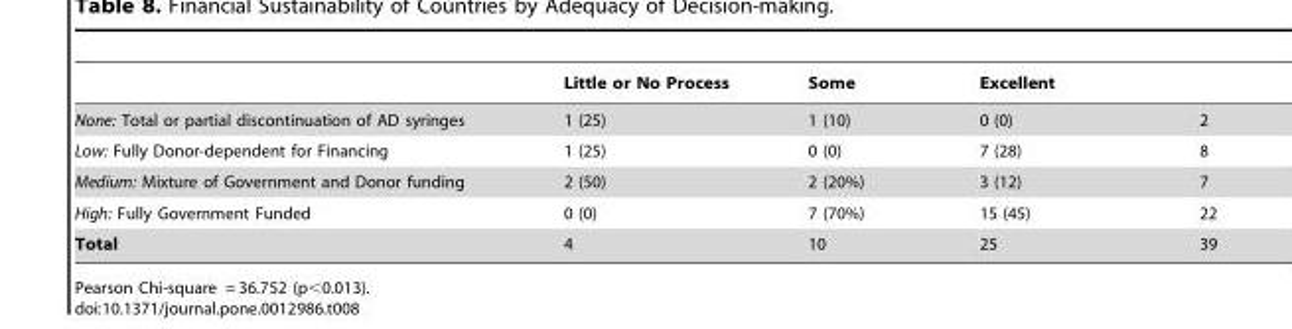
<table><thead><tr><td></td><td>Little or No Process</td><td>Some</td><td>Excellent</td><td></td></tr></thead><tbody><tr><td>None: Total or partial discontinuation of AD syringes</td><td>1 (25)</td><td>1 (10)</td><td>0 (0)</td><td>2</td></tr><tr><td>Low: Fully Donor-dependent for Financing</td><td>1 (25)</td><td>0 (0)</td><td>7 (28)</td><td>8</td></tr><tr><td>Medium: Mixture of Government and Donor funding</td><td>2 (50)</td><td>2 (20%)</td><td>3 (12)</td><td>7</td></tr><tr><td>High: Fully Government Funded</td><td>0 (0)</td><td>7 (70%)</td><td>15 (45)</td><td>22</td></tr><tr><td>Total</td><td>4</td><td>10</td><td>25</td><td>39</td></tr></tbody></table>